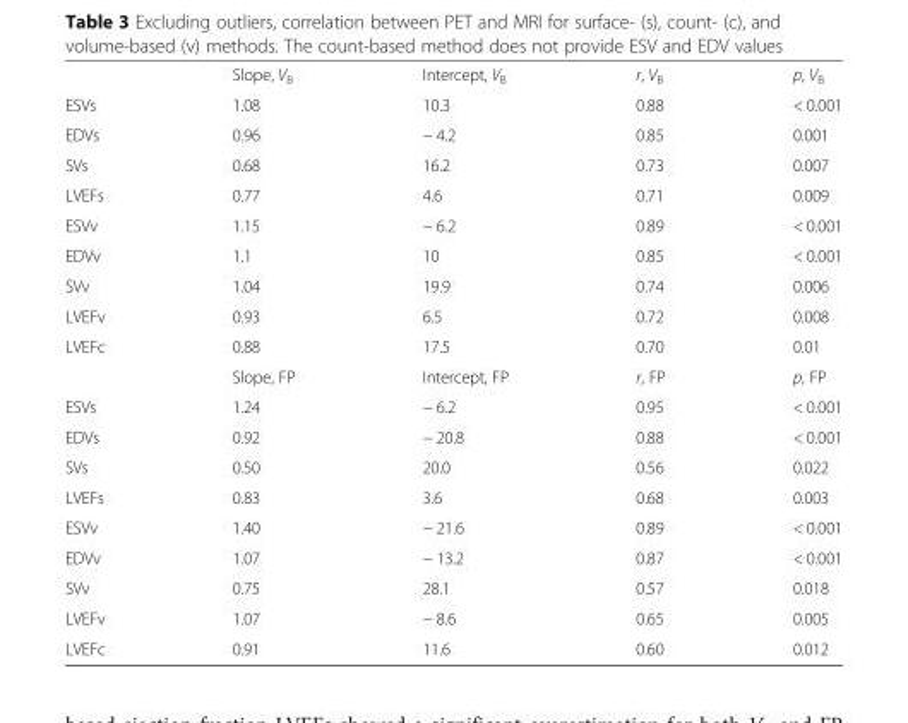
<table><thead><tr><td></td><td>Slope, V<sub>B</sub></td><td>Intercept, V<sub>B</sub></td><td>r, V<sub>B</sub></td><td>p, V<sub>B</sub></td></tr></thead><tbody><tr><td>ESVs</td><td>1.08</td><td>10.3</td><td>0.88</td><td>&lt; 0.001</td></tr><tr><td>EDVs</td><td>0.96</td><td>− 4.2</td><td>0.85</td><td>0.001</td></tr><tr><td>SVs</td><td>0.68</td><td>16.2</td><td>0.73</td><td>0.007</td></tr><tr><td>LVEFs</td><td>0.77</td><td>4.6</td><td>0.71</td><td>0.009</td></tr><tr><td>ESVv</td><td>1.15</td><td>− 6.2</td><td>0.89</td><td>&lt; 0.001</td></tr><tr><td>EDVv</td><td>1.1</td><td>10</td><td>0.85</td><td>&lt; 0.001</td></tr><tr><td>SVv</td><td>1.04</td><td>19.9</td><td>0.74</td><td>0.006</td></tr><tr><td>LVEFv</td><td>0.93</td><td>6.5</td><td>0.72</td><td>0.008</td></tr><tr><td rowspan="2">LVEFc</td><td>0.88</td><td>17.5</td><td>0.70</td><td>0.01</td></tr><tr><td>Slope, FP</td><td>Intercept, FP</td><td>r, FP</td><td>p, FP</td></tr><tr><td>ESVs</td><td>1.24</td><td>− 6.2</td><td>0.95</td><td>&lt; 0.001</td></tr><tr><td>EDVs</td><td>0.92</td><td>− 20.8</td><td>0.88</td><td>&lt; 0.001</td></tr><tr><td>SVs</td><td>0.50</td><td>20.0</td><td>0.56</td><td>0.022</td></tr><tr><td>LVEFs</td><td>0.83</td><td>3.6</td><td>0.68</td><td>0.003</td></tr><tr><td>ESVv</td><td>1.40</td><td>− 21.6</td><td>0.89</td><td>&lt; 0.001</td></tr><tr><td>EDVv</td><td>1.07</td><td>− 13.2</td><td>0.87</td><td>&lt; 0.001</td></tr><tr><td>SVv</td><td>0.75</td><td>28.1</td><td>0.57</td><td>0.018</td></tr><tr><td>LVEFv</td><td>1.07</td><td>− 8.6</td><td>0.65</td><td>0.005</td></tr><tr><td>LVEFc</td><td>0.91</td><td>11.6</td><td>0.60</td><td>0.012</td></tr></tbody></table>